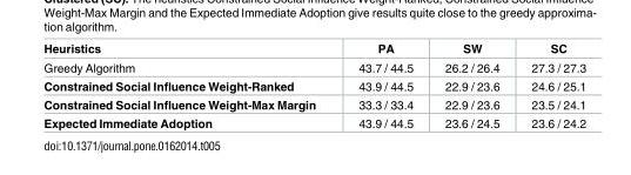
<table><thead><tr><td>Heuristics</td><td>PA</td><td>SW</td><td>SC</td></tr></thead><tbody><tr><td>Greedy Algorithm</td><td>43.7 / 44.5</td><td>26.2 / 26.4</td><td>27.3 / 27.3</td></tr><tr><td>Constrained Social Influence Weight-Ranked</td><td>43.9 / 44.5</td><td>22.9 / 23.6</td><td>24.6 / 25.1</td></tr><tr><td>Constrained Social Influence Weight-Max Margin</td><td>33.3 / 33.4</td><td>22.9 / 23.6</td><td>23.5 / 24.1</td></tr><tr><td>Expected Immediate Adoption</td><td>43.9 / 44.5</td><td>23.6 / 24.5</td><td>23.6 / 24.2</td></tr></tbody></table>